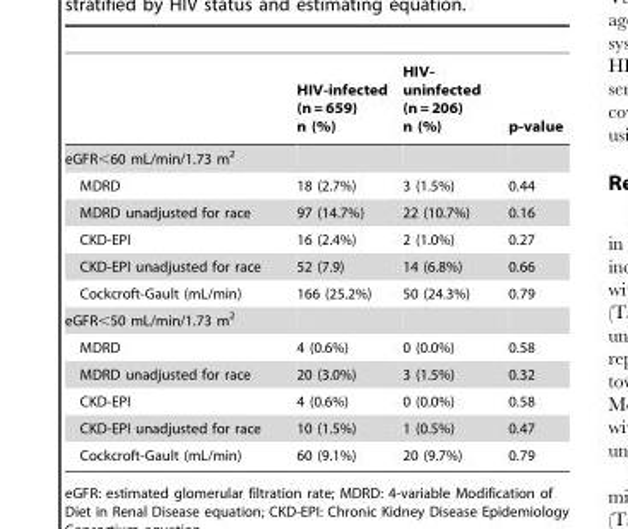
<table><thead><tr><td></td><td>HIV-infected (n = 659) n (%)</td><td>HIV- uninfected (n = 206) n (%)</td><td>p-value</td></tr></thead><tbody><tr><td colspan="4">eGFR&lt;60 mL/min/1.73 m<sup>2</sup></td></tr><tr><td>MDRD</td><td>18 (2.7%)</td><td>3 (1.5%)</td><td>0.44</td></tr><tr><td>MDRD unadjusted for race</td><td>97 (14.7%)</td><td>22 (10.7%)</td><td>0.16</td></tr><tr><td>CKD-EPI</td><td>16 (2.4%)</td><td>2 (1.0%)</td><td>0.27</td></tr><tr><td>CKD-EPI unadjusted for race</td><td>52 (7.9)</td><td>14 (6.8%)</td><td>0.66</td></tr><tr><td>Cockcroft-Gault (mL/min)</td><td>166 (25.2%)</td><td>50 (24.3%)</td><td>0.79</td></tr><tr><td colspan="4">eGFR&lt;50 mL/min/1.73 m<sup>2</sup></td></tr><tr><td>MDRD</td><td>4 (0.6%)</td><td>0 (0.0%)</td><td>0.58</td></tr><tr><td>MDRD unadjusted for race</td><td>20 (3.0%)</td><td>3 (1.5%)</td><td>0.32</td></tr><tr><td>CKD-EPI</td><td>4 (0.6%)</td><td>0 (0.0%)</td><td>0.58</td></tr><tr><td>CKD-EPI unadjusted for race</td><td>10 (1.5%)</td><td>1 (0.5%)</td><td>0.47</td></tr><tr><td>Cockcroft-Gault (mL/min)</td><td>60 (9.1%)</td><td>20 (9.7%)</td><td>0.79</td></tr></tbody></table>